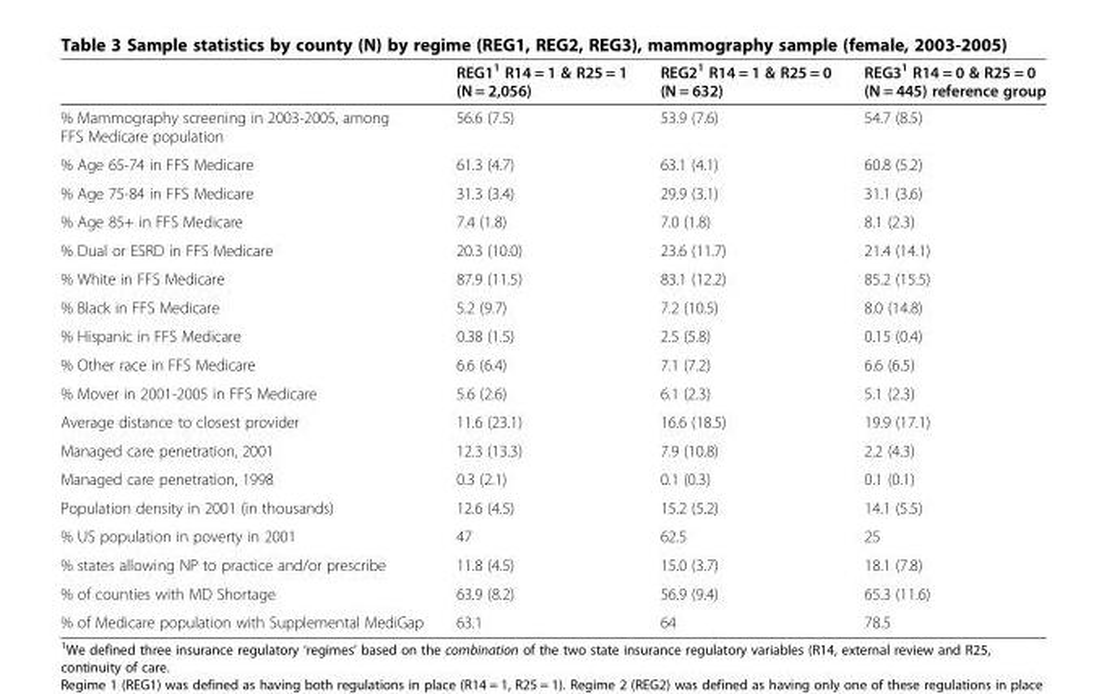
<table><thead><tr><td></td><td>REG1<sup>1</sup> R14 = 1 &amp; R25 = 1 (N = 2,056)</td><td>REG2<sup>1</sup> R14 = 1 &amp; R25 = 0 (N = 632)</td><td>REG3<sup>1</sup> R14 = 0 &amp; R25 = 0 (N = 445) reference group</td></tr></thead><tbody><tr><td>% Mammography screening in 2003-2005, among FFS Medicare population</td><td>56.6 (7.5)</td><td>53.9 (7.6)</td><td>54.7 (8.5)</td></tr><tr><td>% Age 65-74 in FFS Medicare</td><td>61.3 (4.7)</td><td>63.1 (4.1)</td><td>60.8 (5.2)</td></tr><tr><td>% Age 75-84 in FFS Medicare</td><td>31.3 (3.4)</td><td>29.9 (3.1)</td><td>31.1 (3.6)</td></tr><tr><td>% Age 85+ in FFS Medicare</td><td>7.4 (1.8)</td><td>7.0 (1.8)</td><td>8.1 (2.3)</td></tr><tr><td>% Dual or ESRD in FFS Medicare</td><td>20.3 (10.0)</td><td>23.6 (11.7)</td><td>21.4 (14.1)</td></tr><tr><td>% White in FFS Medicare</td><td>87.9 (11.5)</td><td>83.1 (12.2)</td><td>85.2 (15.5)</td></tr><tr><td>% Black in FFS Medicare</td><td>5.2 (9.7)</td><td>7.2 (10.5)</td><td>8.0 (14.8)</td></tr><tr><td>% Hispanic in FFS Medicare</td><td>0.38 (1.5)</td><td>2.5 (5.8)</td><td>0.15 (0.4)</td></tr><tr><td>% Other race in FFS Medicare</td><td>6.6 (6.4)</td><td>7.1 (7.2)</td><td>6.6 (6.5)</td></tr><tr><td>% Mover in 2001-2005 in FFS Medicare</td><td>5.6 (2.6)</td><td>6.1 (2.3)</td><td>5.1 (2.3)</td></tr><tr><td>Average distance to closest provider</td><td>11.6 (23.1)</td><td>16.6 (18.5)</td><td>19.9 (17.1)</td></tr><tr><td>Managed care penetration, 2001</td><td>12.3 (13.3)</td><td>7.9 (10.8)</td><td>2.2 (4.3)</td></tr><tr><td>Managed care penetration, 1998</td><td>0.3 (2.1)</td><td>0.1 (0.3)</td><td>0.1 (0.1)</td></tr><tr><td>Population density in 2001 (in thousands)</td><td>12.6 (4.5)</td><td>15.2 (5.2)</td><td>14.1 (5.5)</td></tr><tr><td>% US population in poverty in 2001</td><td>47</td><td>62.5</td><td>25</td></tr><tr><td>% states allowing NP to practice and/or prescribe</td><td>11.8 (4.5)</td><td>15.0 (3.7)</td><td>18.1 (7.8)</td></tr><tr><td>% of counties with MD Shortage</td><td>63.9 (8.2)</td><td>56.9 (9.4)</td><td>65.3 (11.6)</td></tr><tr><td>% of Medicare population with Supplemental MediGap</td><td>63.1</td><td>64</td><td>78.5</td></tr></tbody></table>